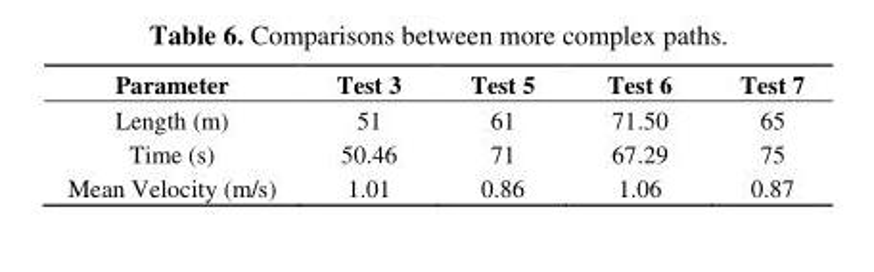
<table><thead><tr><td>Parameter</td><td>Test 3</td><td>Test 5</td><td>Test 6</td><td>Test 7</td></tr></thead><tbody><tr><td>Length (m)</td><td>51</td><td>61</td><td>71.50</td><td>65</td></tr><tr><td>Time (s)</td><td>50.46</td><td>71</td><td>67.29</td><td>75</td></tr><tr><td>Mean Velocity (m/s)</td><td>1.01</td><td>0.86</td><td>1.06</td><td>0.87</td></tr></tbody></table>